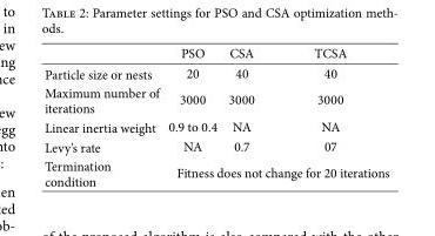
<table><thead><tr><td></td><td>PSO</td><td>CSA</td><td>TCSA</td></tr></thead><tbody><tr><td>Particle size or nests</td><td>20</td><td>40</td><td>40</td></tr><tr><td>Maximum number of iterations</td><td>3000</td><td>3000</td><td>3000</td></tr><tr><td>Linear inertia weight</td><td>0.9 to 0.4</td><td>NA</td><td>NA</td></tr><tr><td>Levy’s rate</td><td>NA</td><td>0.7</td><td>07</td></tr><tr><td>Termination condition</td><td colspan="3">Fitness does not change for 20 iterations</td></tr></tbody></table>